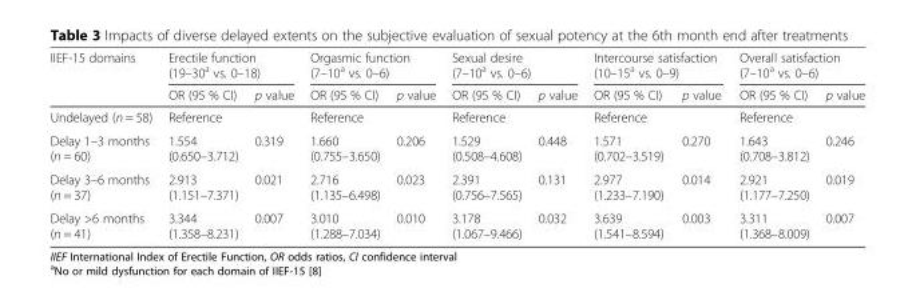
<table><thead><tr><td rowspan="2">IIEF-15 domains</td><td colspan="2">Erectile function (19–30<sup>a</sup> vs. 0–18)</td><td colspan="2">Orgasmic function (7–10<sup>a</sup> vs. 0–6)</td><td colspan="2">Sexual desire (7–10<sup>a</sup> vs. 0–6)</td><td colspan="2">Intercourse satisfaction (10–15<sup>a</sup> vs. 0–9)</td><td colspan="2">Overall satisfaction (7–10<sup>a</sup> vs. 0–6)</td></tr><tr><td>OR (95 % CI)</td><td>p value</td><td>OR (95 % CI)</td><td>p value</td><td>OR (95 % CI)</td><td>p value</td><td>OR (95 % CI)</td><td>p value</td><td>OR (95 % CI)</td><td>p value</td></tr></thead><tbody><tr><td>Undelayed (n = 58)</td><td>Reference</td><td></td><td>Reference</td><td></td><td>Reference</td><td></td><td>Reference</td><td></td><td>Reference</td><td></td></tr><tr><td>Delay 1–3 months (n = 60)</td><td>1.554 (0.650–3.712)</td><td>0.319</td><td>1.660 (0.755–3.650)</td><td>0.206</td><td>1.529 (0.508–4.608)</td><td>0.448</td><td>1.571 (0.702–3.519)</td><td>0.270</td><td>1.643 (0.708–3.812)</td><td>0.246</td></tr><tr><td>Delay 3–6 months (n = 37)</td><td>2.913 (1.151–7.371)</td><td>0.021</td><td>2.716 (1.135–6.498)</td><td>0.023</td><td>2.391 (0.756–7.565)</td><td>0.131</td><td>2.977 (1.233–7.190)</td><td>0.014</td><td>2.921 (1.177–7.250)</td><td>0.019</td></tr><tr><td>Delay &gt;6 months (n = 41)</td><td>3.344 (1.358–8.231)</td><td>0.007</td><td>3.010 (1.288–7.034)</td><td>0.010</td><td>3.178 (1.067–9.466)</td><td>0.032</td><td>3.639 (1.541–8.594)</td><td>0.003</td><td>3.311 (1.368–8.009)</td><td>0.007</td></tr></tbody></table>